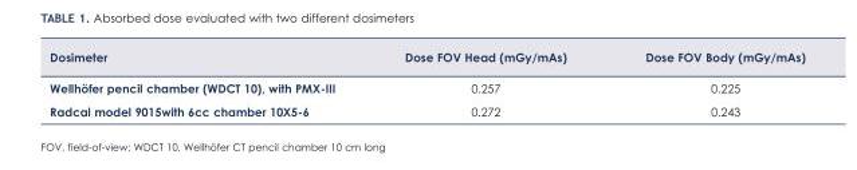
<table><thead><tr><td>Dosimeter</td><td>Dose FOV Head (mGy/mAs)</td><td>Dose FOV Body (mGy/mAs)</td></tr></thead><tbody><tr><td>Wellhöfer pencil chamber (WDCT 10), with PMX-III</td><td>0.257</td><td>0.225</td></tr><tr><td>Radcal model 9015with 6cc chamber 10X5-6</td><td>0.272</td><td>0.243</td></tr></tbody></table>